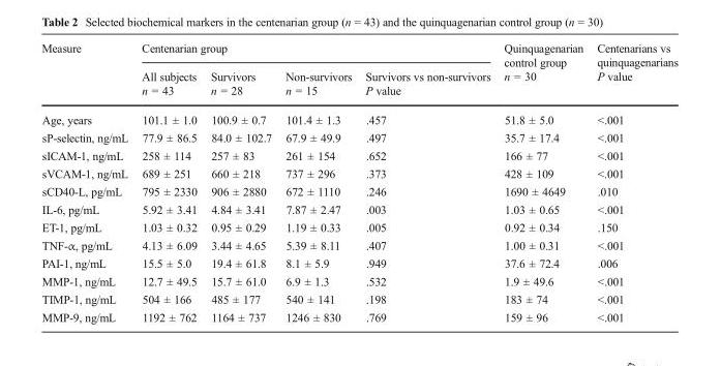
<table><thead><tr><td rowspan="2">Measure</td><td colspan="4">Centenarian group</td><td rowspan="2">Quinquagenarian control group n = 30</td><td rowspan="2">Centenarians vs quinquagenarians P value</td></tr><tr><td>All subjects n = 43</td><td>Survivors n = 28</td><td>Non-survivors n = 15</td><td>Survivors vs non-survivors P value</td></tr></thead><tbody><tr><td>Age, years</td><td>101.1 ± 1.0</td><td>100.9 ± 0.7</td><td>101.4 ± 1.3</td><td>.457</td><td>51.8 ± 5.0</td><td>&lt;.001</td></tr><tr><td>sP-selectin, ng/mL</td><td>77.9 ± 86.5</td><td>84.0 ± 102.7</td><td>67.9 ± 49.9</td><td>.497</td><td>35.7 ± 17.4</td><td>&lt;.001</td></tr><tr><td>sICAM-1, ng/mL</td><td>258 ± 114</td><td>257 ± 83</td><td>261 ± 154</td><td>.652</td><td>166 ± 77</td><td>&lt;.001</td></tr><tr><td>sVCAM-1, ng/mL</td><td>689 ± 251</td><td>660 ± 218</td><td>737 ± 296</td><td>.373</td><td>428 ± 109</td><td>&lt;.001</td></tr><tr><td>sCD40-L, pg/mL</td><td>795 ± 2330</td><td>906 ± 2880</td><td>672 ± 1110</td><td>.246</td><td>1690 ± 4649</td><td>.010</td></tr><tr><td>IL-6, pg/mL</td><td>5.92 ± 3.41</td><td>4.84 ± 3.41</td><td>7.87 ± 2.47</td><td>.003</td><td>1.03 ± 0.65</td><td>&lt;.001</td></tr><tr><td>ET-1, pg/mL</td><td>1.03 ± 0.32</td><td>0.95 ± 0.29</td><td>1.19 ± 0.33</td><td>.005</td><td>0.92 ± 0.34</td><td>.150</td></tr><tr><td>TNF-α, pg/mL</td><td>4.13 ± 6.09</td><td>3.44 ± 4.65</td><td>5.39 ± 8.11</td><td>.407</td><td>1.00 ± 0.31</td><td>&lt;.001</td></tr><tr><td>PAI-1, ng/mL</td><td>15.5 ± 5.0</td><td>19.4 ± 61.8</td><td>8.1 ± 5.9</td><td>.949</td><td>37.6 ± 72.4</td><td>.006</td></tr><tr><td>MMP-1, ng/mL</td><td>12.7 ± 49.5</td><td>15.7 ± 61.0</td><td>6.9 ± 1.3</td><td>.532</td><td>1.9 ± 49.6</td><td>&lt;.001</td></tr><tr><td>TIMP-1, ng/mL</td><td>504 ± 166</td><td>485 ± 177</td><td>540 ± 141</td><td>.198</td><td>183 ± 74</td><td>&lt;.001</td></tr><tr><td>MMP-9, ng/mL</td><td>1192 ± 762</td><td>1164 ± 737</td><td>1246 ± 830</td><td>.769</td><td>159 ± 96</td><td>&lt;.001</td></tr></tbody></table>